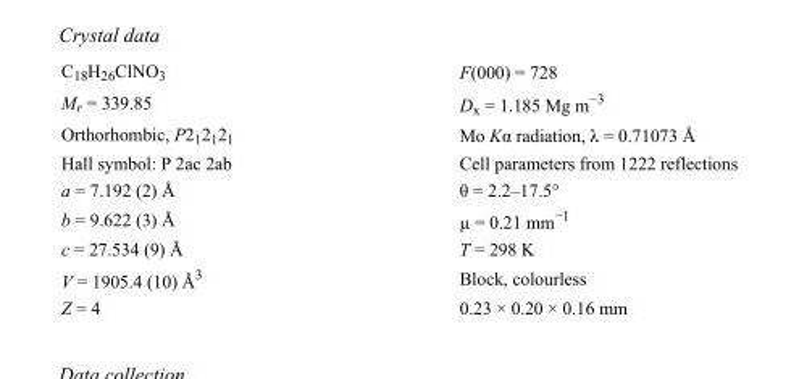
<table><tbody><tr><td>C<sub>18</sub>H<sub>26</sub>ClNO<sub>3</sub></td><td>F(000) = 728</td></tr><tr><td>M<sub>r</sub> = 339.85</td><td>D<sub>x</sub> = 1.185 Mg m<sup>−3</sup></td></tr><tr><td>Orthorhombic, P2<sub>1</sub>2<sub>1</sub>2<sub>1</sub></td><td>Mo Kα radiation, λ = 0.71073 Å</td></tr><tr><td>Hall symbol: P 2ac 2ab</td><td>Cell parameters from 1222 reflections</td></tr><tr><td>a = 7.192 (2) Å</td><td>θ = 2.2–17.5°</td></tr><tr><td>b = 9.622 (3) Å</td><td>µ = 0.21 mm<sup>−1</sup></td></tr><tr><td>c = 27.534 (9) Å</td><td>T = 298 K</td></tr><tr><td>V = 1905.4 (10) Å<sup>3</sup></td><td>Block, colourless</td></tr><tr><td>Z = 4</td><td>0.23 × 0.20 × 0.16 mm</td></tr></tbody></table>